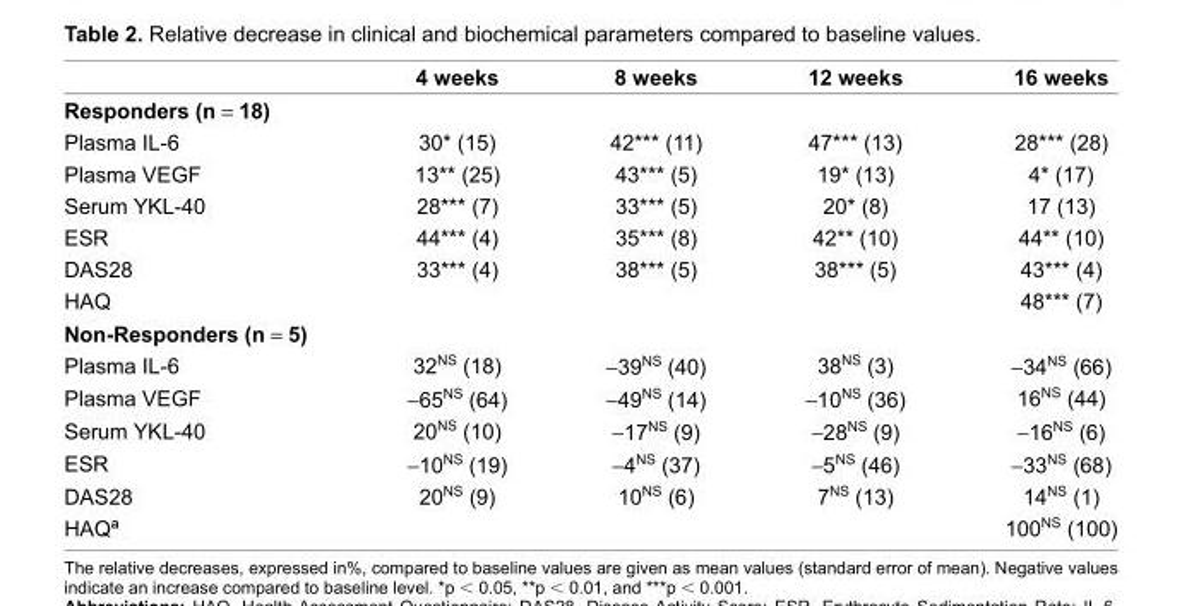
<table><thead><tr><td></td><td>4 weeks</td><td>8 weeks</td><td>12 weeks</td><td>16 weeks</td></tr></thead><tbody><tr><td colspan="5">Responders (n = 18)</td></tr><tr><td>Plasma IL-6</td><td>30* (15)</td><td>42*** (11)</td><td>47*** (13)</td><td>28*** (28)</td></tr><tr><td>Plasma VEGF</td><td>13** (25)</td><td>43*** (5)</td><td>19* (13)</td><td>4* (17)</td></tr><tr><td>Serum YKL-40</td><td>28*** (7)</td><td>33*** (5)</td><td>20* (8)</td><td>17 (13)</td></tr><tr><td>ESR</td><td>44*** (4)</td><td>35*** (8)</td><td>42** (10)</td><td>44** (10)</td></tr><tr><td>DAS28</td><td>33*** (4)</td><td>38*** (5)</td><td>38*** (5)</td><td>43*** (4)</td></tr><tr><td>HAQ</td><td></td><td></td><td></td><td>48*** (7)</td></tr><tr><td colspan="5">Non-Responders (n = 5)</td></tr><tr><td>Plasma IL-6</td><td>32<sup>NS</sup> (18)</td><td>−39<sup>NS</sup> (40)</td><td>38<sup>NS</sup> (3)</td><td>−34<sup>NS</sup> (66)</td></tr><tr><td>Plasma VEGF</td><td>−65<sup>NS</sup> (64)</td><td>−49<sup>NS</sup> (14)</td><td>−10<sup>NS</sup> (36)</td><td>16<sup>NS</sup> (44)</td></tr><tr><td>Serum YKL-40</td><td>20<sup>NS</sup> (10)</td><td>−17<sup>NS</sup> (9)</td><td>−28<sup>NS</sup> (9)</td><td>−16<sup>NS</sup> (6)</td></tr><tr><td>ESR</td><td>−10<sup>NS</sup> (19)</td><td>−4<sup>NS</sup> (37)</td><td>−5<sup>NS</sup> (46)</td><td>−33<sup>NS</sup> (68)</td></tr><tr><td>DAS28</td><td>20<sup>NS</sup> (9)</td><td>10<sup>NS</sup> (6)</td><td>7<sup>NS</sup> (13)</td><td>14<sup>NS</sup> (1)</td></tr><tr><td>HAQ<sup>ª</sup></td><td></td><td></td><td></td><td>100<sup>NS</sup> (100)</td></tr></tbody></table>